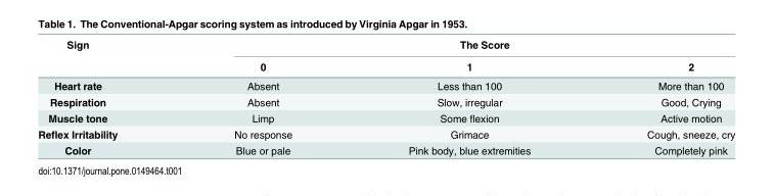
<table><thead><tr><td rowspan="2">Sign</td><td colspan="3">The Score</td></tr><tr><td>0</td><td>1</td><td>2</td></tr></thead><tbody><tr><td>Heart rate</td><td>Absent</td><td>Less than 100</td><td>More than 100</td></tr><tr><td>Respiration</td><td>Absent</td><td>Slow, irregular</td><td>Good, Crying</td></tr><tr><td>Muscle tone</td><td>Limp</td><td>Some flexion</td><td>Active motion</td></tr><tr><td>Reflex Irritability</td><td>No response</td><td>Grimace</td><td>Cough, sneeze, cry</td></tr><tr><td>Color</td><td>Blue or pale</td><td>Pink body, blue extremities</td><td>Completely pink</td></tr></tbody></table>